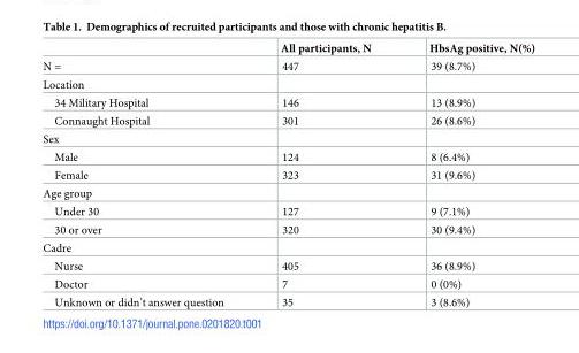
<table><thead><tr><td></td><td>All participants, N</td><td>HbsAg positive, N(%)</td></tr></thead><tbody><tr><td>N =</td><td>447</td><td>39 (8.7%)</td></tr><tr><td colspan="3">Location</td></tr><tr><td>34 Military Hospital</td><td>146</td><td>13 (8.9%)</td></tr><tr><td>Connaught Hospital</td><td>301</td><td>26 (8.6%)</td></tr><tr><td colspan="3">Sex</td></tr><tr><td>Male</td><td>124</td><td>8 (6.4%)</td></tr><tr><td>Female</td><td>323</td><td>31 (9.6%)</td></tr><tr><td colspan="3">Age group</td></tr><tr><td>Under 30</td><td>127</td><td>9 (7.1%)</td></tr><tr><td>30 or over</td><td>320</td><td>30 (9.4%)</td></tr><tr><td colspan="3">Cadre</td></tr><tr><td>Nurse</td><td>405</td><td>36 (8.9%)</td></tr><tr><td>Doctor</td><td>7</td><td>0 (0%)</td></tr><tr><td>Unknown or didn’t answer question</td><td>35</td><td>3 (8.6%)</td></tr></tbody></table>